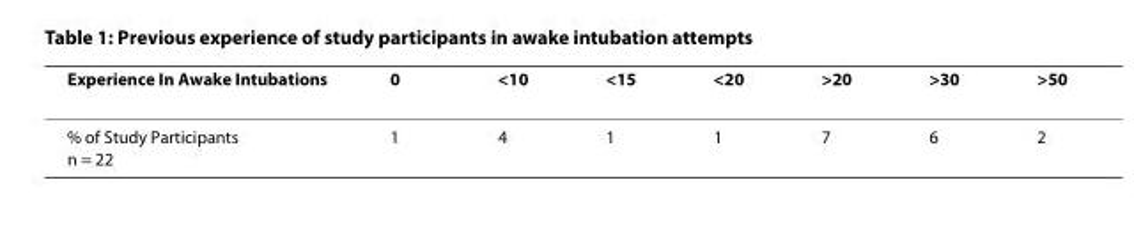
<table><thead><tr><td>Experience In Awake Intubations</td><td>0</td><td>&lt;10</td><td>&lt;15</td><td>&lt;20</td><td>&gt;20</td><td>&gt;30</td><td>&gt;50</td></tr></thead><tbody><tr><td>% of Study Participants n = 22</td><td>1</td><td>4</td><td>1</td><td>1</td><td>7</td><td>6</td><td>2</td></tr></tbody></table>